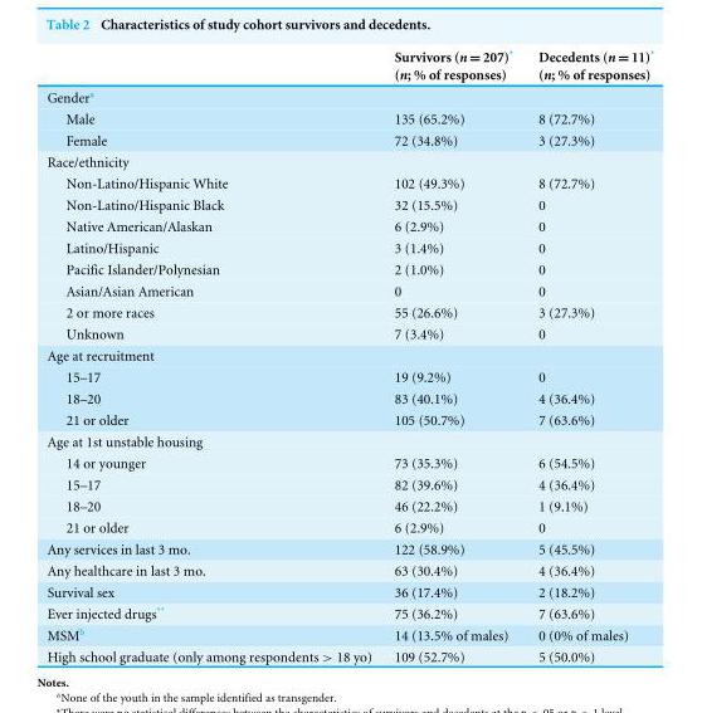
<table><thead><tr><td></td><td>Survivors (n = 207)* (n; % of responses)</td><td>Decedents (n = 11)* (n; % of responses)</td></tr></thead><tbody><tr><td colspan="3">Gender<sup>a</sup></td></tr><tr><td>Male</td><td>135 (65.2%)</td><td>8 (72.7%)</td></tr><tr><td>Female</td><td>72 (34.8%)</td><td>3 (27.3%)</td></tr><tr><td colspan="3">Race/ethnicity</td></tr><tr><td>Non-Latino/Hispanic White</td><td>102 (49.3%)</td><td>8 (72.7%)</td></tr><tr><td>Non-Latino/Hispanic Black</td><td>32 (15.5%)</td><td>0</td></tr><tr><td>Native American/Alaskan</td><td>6 (2.9%)</td><td>0</td></tr><tr><td>Latino/Hispanic</td><td>3 (1.4%)</td><td>0</td></tr><tr><td>Pacific Islander/Polynesian</td><td>2 (1.0%)</td><td>0</td></tr><tr><td>Asian/Asian American</td><td>0</td><td>0</td></tr><tr><td>2 or more races</td><td>55 (26.6%)</td><td>3 (27.3%)</td></tr><tr><td>Unknown</td><td>7 (3.4%)</td><td>0</td></tr><tr><td colspan="3">Age at recruitment</td></tr><tr><td>15–17</td><td>19 (9.2%)</td><td>0</td></tr><tr><td>18–20</td><td>83 (40.1%)</td><td>4 (36.4%)</td></tr><tr><td>21 or older</td><td>105 (50.7%)</td><td>7 (63.6%)</td></tr><tr><td colspan="3">Age at 1st unstable housing</td></tr><tr><td>14 or younger</td><td>73 (35.3%)</td><td>6 (54.5%)</td></tr><tr><td>15–17</td><td>82 (39.6%)</td><td>4 (36.4%)</td></tr><tr><td>18–20</td><td>46 (22.2%)</td><td>1 (9.1%)</td></tr><tr><td>21 or older</td><td>6 (2.9%)</td><td>0</td></tr><tr><td>Any services in last 3 mo.</td><td>122 (58.9%)</td><td>5 (45.5%)</td></tr><tr><td>Any healthcare in last 3 mo.</td><td>63 (30.4%)</td><td>4 (36.4%)</td></tr><tr><td>Survival sex</td><td>36 (17.4%)</td><td>2 (18.2%)</td></tr><tr><td>Ever injected drugs**</td><td>75 (36.2%)</td><td>7 (63.6%)</td></tr><tr><td>MSM<sup>b</sup></td><td>14 (13.5% of males)</td><td>0 (0% of males)</td></tr><tr><td>High school graduate (only among respondents &gt; 18 yo)</td><td>109 (52.7%)</td><td>5 (50.0%)</td></tr></tbody></table>